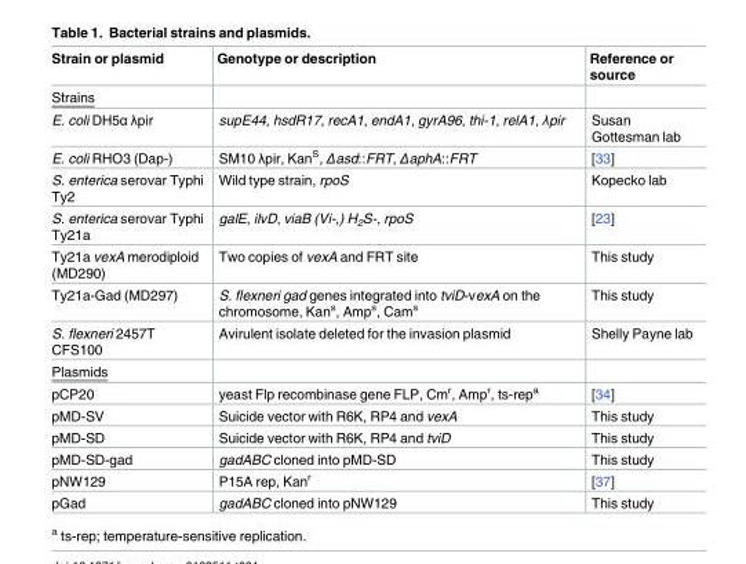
<table><thead><tr><td>Strain or plasmid</td><td>Genotype or description</td><td>Reference or source</td></tr></thead><tbody><tr><td colspan="3">Strains</td></tr><tr><td>E. coli DH5α λpir</td><td>supE44, hsdR17, recA1, endA1, gyrA96, thi-1, relA1, λpir</td><td>Susan Gottesman lab</td></tr><tr><td>E. coli RHO3 (Dap-)</td><td>SM10 λpir, Kan<sup>S</sup>, Δasd::FRT, ΔaphA::FRT</td><td>[33]</td></tr><tr><td>S. enterica serovar Typhi Ty2</td><td>Wild type strain, rpoS</td><td>Kopecko lab</td></tr><tr><td>S. enterica serovar Typhi Ty21a</td><td>galE, ilvD, viaB (Vi-,) H<sub>2</sub>S-, rpoS</td><td>[23]</td></tr><tr><td>Ty21a vexA merodiploid (MD290)</td><td>Two copies of vexA and FRT site</td><td>This study</td></tr><tr><td>Ty21a-Gad (MD297)</td><td>S. flexneri gad genes integrated into tviD-vexA on the chromosome, Kan<sup>s</sup>, Amp<sup>s</sup>, Cam<sup>s</sup></td><td>This study</td></tr><tr><td>S. flexneri 2457T CFS100</td><td>Avirulent isolate deleted for the invasion plasmid</td><td>Shelly Payne lab</td></tr><tr><td colspan="3">Plasmids</td></tr><tr><td>pCP20</td><td>yeast Flp recombinase gene FLP, Cm<sup>r</sup>, Amp<sup>r</sup>, ts-rep<sup>a</sup></td><td>[34]</td></tr><tr><td>pMD-SV</td><td>Suicide vector with R6K, RP4 and vexA</td><td>This study</td></tr><tr><td>pMD-SD</td><td>Suicide vector with R6K, RP4 and tviD</td><td>This study</td></tr><tr><td>pMD-SD-gad</td><td>gadABC cloned into pMD-SD</td><td>This study</td></tr><tr><td>pNW129</td><td>P15A rep, Kan<sup>r</sup></td><td>[37]</td></tr><tr><td>pGad</td><td>gadABC cloned into pNW129</td><td>This study</td></tr></tbody></table>